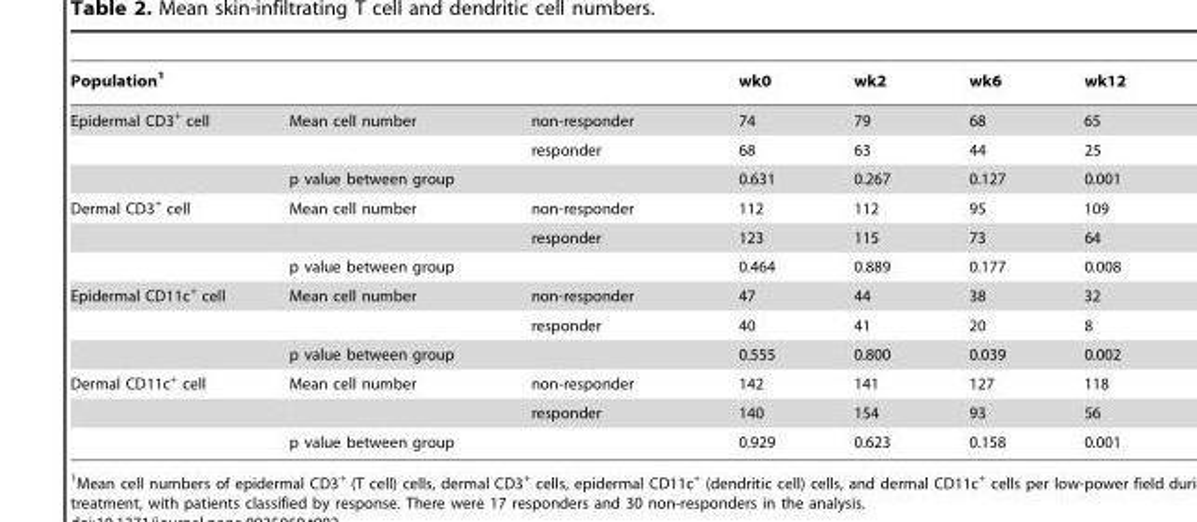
<table><thead><tr><td colspan="3">Population<sup>1</sup></td><td rowspan="2">wk0 74</td><td rowspan="2">wk2 79</td><td rowspan="2">wk6 68</td><td rowspan="2">wk12 65</td></tr><tr><td>Epidermal CD3<sup>+</sup> cell</td><td>Mean cell number</td><td>non-responder</td></tr></thead><tbody><tr><td></td><td></td><td>responder</td><td>68</td><td>63</td><td>44</td><td>25</td></tr><tr><td></td><td colspan="2">p value between group</td><td>0.631</td><td>0.267</td><td>0.127</td><td>0.001</td></tr><tr><td rowspan="3">Dermal CD3<sup>+</sup> cell</td><td>Mean cell number</td><td>non-responder</td><td>112</td><td>112</td><td>95</td><td>109</td></tr><tr><td></td><td>responder</td><td>123</td><td>115</td><td>73</td><td>64</td></tr><tr><td colspan="2">p value between group</td><td>0.464</td><td>0.889</td><td>0.177</td><td>0.008</td></tr><tr><td rowspan="3">Epidermal CD11c<sup>+</sup> cell</td><td>Mean cell number</td><td>non-responder</td><td>47</td><td>44</td><td>38</td><td>32</td></tr><tr><td></td><td>responder</td><td>40</td><td>41</td><td>20</td><td>8</td></tr><tr><td colspan="2">p value between group</td><td>0.555</td><td>0.800</td><td>0.039</td><td>0.002</td></tr><tr><td rowspan="3">Dermal CD11c<sup>+</sup> cell</td><td>Mean cell number</td><td>non-responder</td><td>142</td><td>141</td><td>127</td><td>118</td></tr><tr><td></td><td>responder</td><td>140</td><td>154</td><td>93</td><td>56</td></tr><tr><td colspan="2">p value between group</td><td>0.929</td><td>0.623</td><td>0.158</td><td>0.001</td></tr></tbody></table>